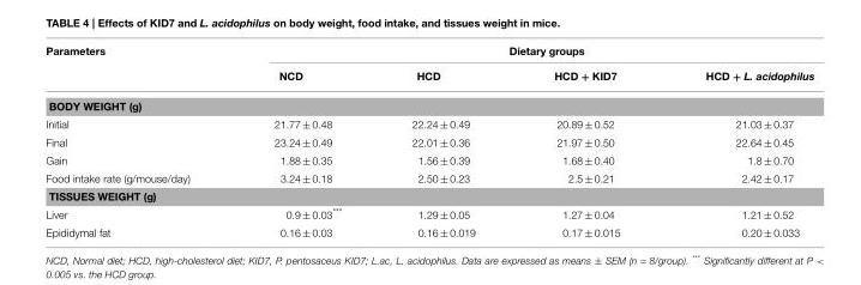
<table><thead><tr><td rowspan="2">Parameters</td><td colspan="4">Dietary groups</td></tr><tr><td>NCD</td><td>HCD</td><td>HCD + KID7</td><td>HCD + L. acidophilus</td></tr></thead><tbody><tr><td colspan="5">BODY WEIGHT (g)</td></tr><tr><td>Initial</td><td>21.77 ± 0.48</td><td>22.24 ± 0.49</td><td>20.89 ± 0.52</td><td>21.03 ± 0.37</td></tr><tr><td>Final</td><td>23.24 ± 0.49</td><td>22.01 ± 0.36</td><td>21.97 ± 0.50</td><td>22.64 ± 0.45</td></tr><tr><td>Gain</td><td>1.88 ± 0.35</td><td>1.56 ± 0.39</td><td>1.68 ± 0.40</td><td>1.8 ± 0.70</td></tr><tr><td>Food intake rate (g/mouse/day)</td><td>3.24 ± 0.18</td><td>2.50 ± 0.23</td><td>2.5 ± 0.21</td><td>2.42 ± 0.17</td></tr><tr><td colspan="5">TISSUES WEIGHT (g)</td></tr><tr><td>Liver</td><td>0.9 ± 0.03***</td><td>1.29 ± 0.05</td><td>1.27 ± 0.04</td><td>1.21 ± 0.52</td></tr><tr><td>Epididymal fat</td><td>0.16 ± 0.03</td><td>0.16 ± 0.019</td><td>0.17 ± 0.015</td><td>0.20 ± 0.033</td></tr></tbody></table>